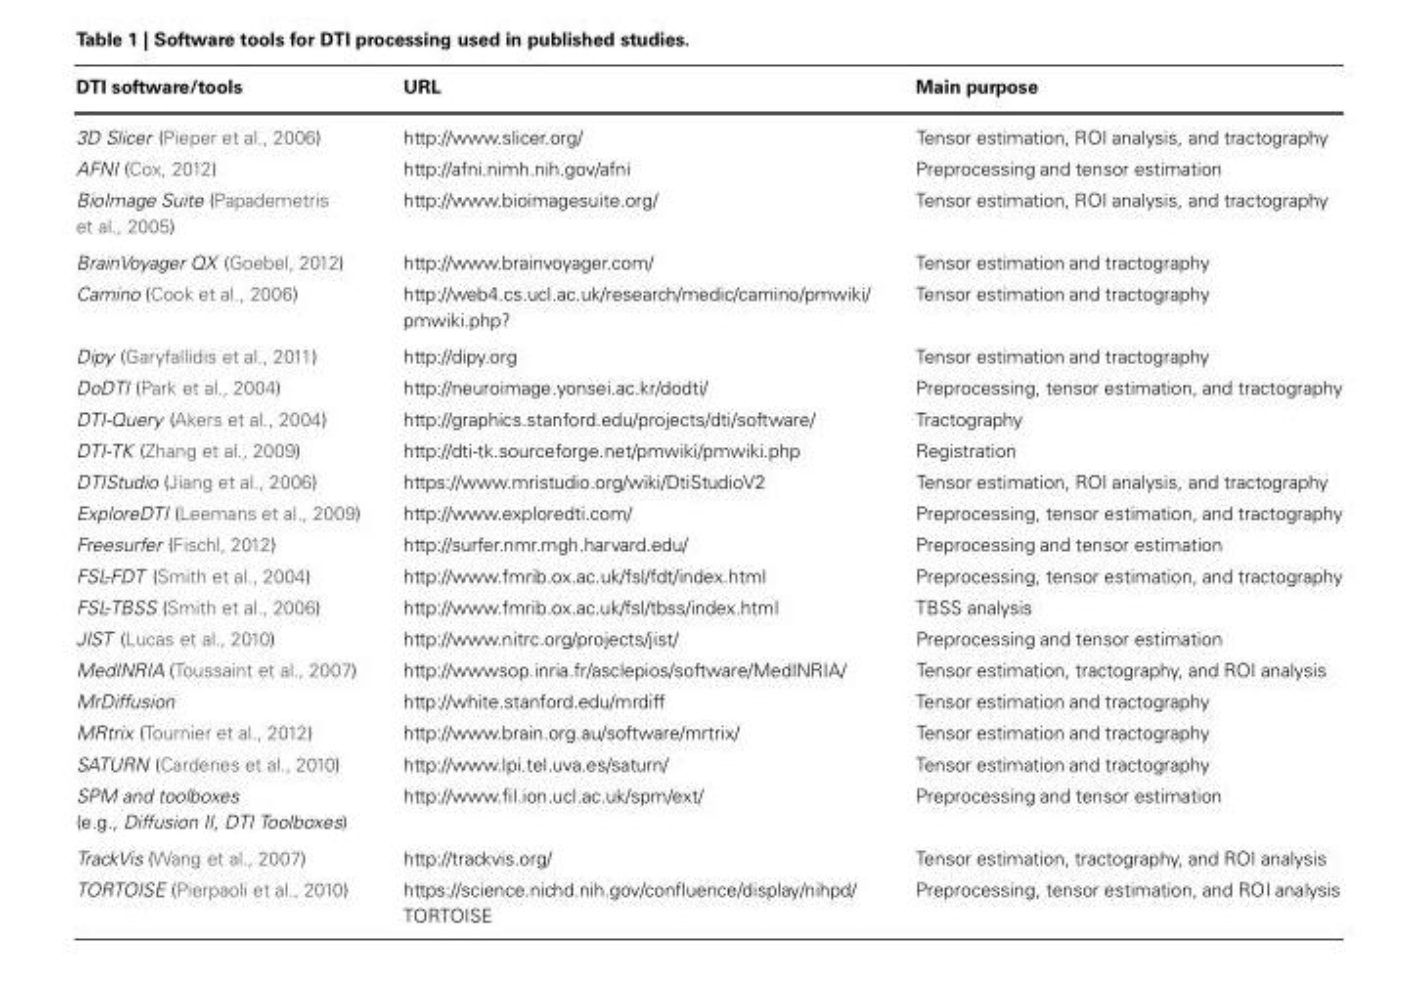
<table><thead><tr><td>DTI software/tools</td><td>URL</td><td>Main purpose</td></tr></thead><tbody><tr><td>3D Slicer (Pieper et al., 2006)</td><td>http://www.slicer.org/</td><td>Tensor estimation, ROI analysis, and tractography</td></tr><tr><td>AFNI (Cox, 2012)</td><td>http://afni.nimh.nih.gov/afni</td><td>Preprocessing and tensor estimation</td></tr><tr><td>BioImage Suite (Papademetris et al., 2005)</td><td>http://www.bioimagesuite.org/</td><td>Tensor estimation, ROI analysis, and tractography</td></tr><tr><td>BrainVoyager QX (Goebel, 2012)</td><td>http://www.brainvoyager.com/</td><td>Tensor estimation and tractography</td></tr><tr><td>Camino (Cook et al., 2006)</td><td>http://web4.cs.ucl.ac.uk/research/medic/camino/pmwiki/ pmwiki.php?</td><td>Tensor estimation and tractography</td></tr><tr><td>Dipy (Garyfallidis et al., 2011)</td><td>http://dipy.org</td><td>Tensor estimation and tractography</td></tr><tr><td>DoDTI (Park et al., 2004)</td><td>http://neuroimage.yonsei.ac.kr/dodti/</td><td>Preprocessing, tensor estimation, and tractography</td></tr><tr><td>DTI-Query (Akers et al., 2004)</td><td>http://graphics.stanford.edu/projects/dti/software/</td><td>Tractography</td></tr><tr><td>DTI-TK (Zhang et al., 2009)</td><td>http://dti-tk.sourceforge.net/pmwiki/pmwiki.php</td><td>Registration</td></tr><tr><td>DTIStudio (Jiang et al., 2006)</td><td>https://www.mristudio.org/wiki/DtiStudioV2</td><td>Tensor estimation, ROI analysis, and tractography</td></tr><tr><td>ExploreDTI (Leemans et al., 2009)</td><td>http://www.exploredti.com/</td><td>Preprocessing, tensor estimation, and tractography</td></tr><tr><td>Freesurfer (Fischl, 2012)</td><td>http://surfer.nmr.mgh.harvard.edu/</td><td>Preprocessing and tensor estimation</td></tr><tr><td>FSL-FDT (Smith et al., 2004)</td><td>http://www.fmrib.ox.ac.uk/fsl/fdt/index.html</td><td>Preprocessing, tensor estimation, and tractography</td></tr><tr><td>FSL-TBSS (Smith et al., 2006)</td><td>http://www.fmrib.ox.ac.uk/fsl/tbss/index.html</td><td>TBSS analysis</td></tr><tr><td>JIST (Lucas et al., 2010)</td><td>http://www.nitrc.org/projects/jist/</td><td>Preprocessing and tensor estimation</td></tr><tr><td>MedINRIA (Toussaint et al., 2007)</td><td>http://wwwsop.inria.fr/asclepios/software/MedINRIA/</td><td>Tensor estimation, tractography, and ROI analysis</td></tr><tr><td>MrDiffusion</td><td>http://white.stanford.edu/mrdiff</td><td>Tensor estimation and tractography</td></tr><tr><td>MRtrix (Tournier et al., 2012)</td><td>http://www.brain.org.au/software/mrtrix/</td><td>Tensor estimation and tractography</td></tr><tr><td>SATURN (Cardenes et al., 2010)</td><td>http://www.lpi.tel.uva.es/saturn/</td><td>Tensor estimation and tractography</td></tr><tr><td>SPM and toolboxes (e.g., Diffusion II, DTI Toolboxes)</td><td>http://www.fil.ion.ucl.ac.uk/spm/ext/</td><td>Preprocessing and tensor estimation</td></tr><tr><td>TrackVis (Wang et al., 2007)</td><td>http://trackvis.org/</td><td>Tensor estimation, tractography, and ROI analysis</td></tr><tr><td>TORTOISE (Pierpaoli et al., 2010)</td><td>https://science.nichd.nih.gov/confluence/display/nihpd/ TORTOISE</td><td>Preprocessing, tensor estimation, and ROI analysis</td></tr></tbody></table>